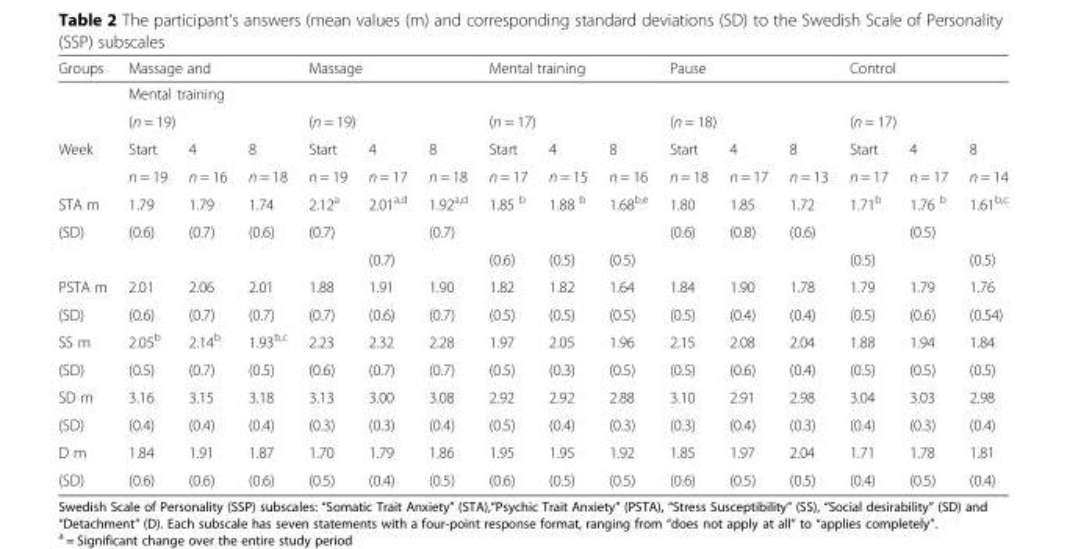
<table><thead><tr><td rowspan="4">Groups Week</td><td rowspan="3" colspan="3">Massage and Mental training (n = 19)</td><td rowspan="3" colspan="3">Massage (n = 19)</td><td rowspan="3" colspan="3">Mental training (n = 17)</td><td rowspan="3" colspan="3">Pause (n = 18)</td><td rowspan="3" colspan="3">Control (n = 17)</td></tr><tr></tr><tr></tr><tr><td>Start</td><td>4</td><td>8</td><td>Start</td><td>4</td><td>8</td><td>Start</td><td>4</td><td>8</td><td>Start</td><td>4</td><td>8</td><td>Start</td><td>4</td><td>8</td></tr></thead><tbody><tr><td></td><td>n = 19</td><td>n = 16</td><td>n = 18</td><td>n = 19</td><td>n = 17</td><td>n = 18</td><td>n = 17</td><td>n = 15</td><td>n = 16</td><td>n = 18</td><td>n = 17</td><td>n = 13</td><td>n = 17</td><td>n = 17</td><td>n = 14</td></tr><tr><td>STA m</td><td>1.79</td><td>1.79</td><td>1.74</td><td>2.12<sup>a</sup></td><td>2.01<sup>a,d</sup></td><td>1.92<sup>a,d</sup></td><td>1.85 <sup>b</sup></td><td>1.88 <sup>b</sup></td><td>1.68<sup>b,e</sup></td><td>1.80</td><td>1.85</td><td>1.72</td><td>1.71<sup>b</sup></td><td>1.76 <sup>b</sup></td><td>1.61<sup>b,c</sup></td></tr><tr><td rowspan="2">(SD)</td><td>(0.6)</td><td>(0.7)</td><td>(0.6)</td><td>(0.7)</td><td></td><td>(0.7)</td><td></td><td></td><td></td><td>(0.6)</td><td>(0.8)</td><td>(0.6)</td><td></td><td>(0.5)</td><td></td></tr><tr><td></td><td></td><td></td><td></td><td>(0.7)</td><td></td><td>(0.6)</td><td>(0.5)</td><td>(0.5)</td><td></td><td></td><td></td><td>(0.5)</td><td></td><td>(0.5)</td></tr><tr><td>PSTA m</td><td>2.01</td><td>2.06</td><td>2.01</td><td>1.88</td><td>1.91</td><td>1.90</td><td>1.82</td><td>1.82</td><td>1.64</td><td>1.84</td><td>1.90</td><td>1.78</td><td>1.79</td><td>1.79</td><td>1.76</td></tr><tr><td>(SD)</td><td>(0.6)</td><td>(0.7)</td><td>(0.7)</td><td>(0.7)</td><td>(0.6)</td><td>(0.7)</td><td>(0.5)</td><td>(0.5)</td><td>(0.5)</td><td>(0.5)</td><td>(0.4)</td><td>(0.4)</td><td>(0.5)</td><td>(0.6)</td><td>(0.54)</td></tr><tr><td>SS m</td><td>2.05<sup>b</sup></td><td>2.14<sup>b</sup></td><td>1.93<sup>b,c</sup></td><td>2.23</td><td>2.32</td><td>2.28</td><td>1.97</td><td>2.05</td><td>1.96</td><td>2.15</td><td>2.08</td><td>2.04</td><td>1.88</td><td>1.94</td><td>1.84</td></tr><tr><td>(SD)</td><td>(0.5)</td><td>(0.7)</td><td>(0.5)</td><td>(0.6)</td><td>(0.7)</td><td>(0.7)</td><td>(0.5)</td><td>(0.3)</td><td>(0.5)</td><td>(0.5)</td><td>(0.6)</td><td>(0.4)</td><td>(0.5)</td><td>(0.5)</td><td>(0.5)</td></tr><tr><td>SD m</td><td>3.16</td><td>3.15</td><td>3.18</td><td>3.13</td><td>3.00</td><td>3.08</td><td>2.92</td><td>2.92</td><td>2.88</td><td>3.10</td><td>2.91</td><td>2.98</td><td>3.04</td><td>3.03</td><td>2.98</td></tr><tr><td>(SD)</td><td>(0.4)</td><td>(0.4)</td><td>(0.4)</td><td>(0.3)</td><td>(0.3)</td><td>(0.4)</td><td>(0.5)</td><td>(0.4)</td><td>(0.3)</td><td>(0.3)</td><td>(0.4)</td><td>(0.3)</td><td>(0.4)</td><td>(0.3)</td><td>(0.4)</td></tr><tr><td>D m</td><td>1.84</td><td>1.91</td><td>1.87</td><td>1.70</td><td>1.79</td><td>1.86</td><td>1.95</td><td>1.95</td><td>1.92</td><td>1.85</td><td>1.97</td><td>2.04</td><td>1.71</td><td>1.78</td><td>1.81</td></tr><tr><td>(SD)</td><td>(0.6)</td><td>(0.6)</td><td>(0.6)</td><td>(0.5)</td><td>(0.4)</td><td>(0.5)</td><td>(0.6)</td><td>(0.5)</td><td>(0.5)</td><td>(0.6)</td><td>(0.5)</td><td>(0.5)</td><td>(0.4)</td><td>(0.5)</td><td>(0.4)</td></tr></tbody></table>